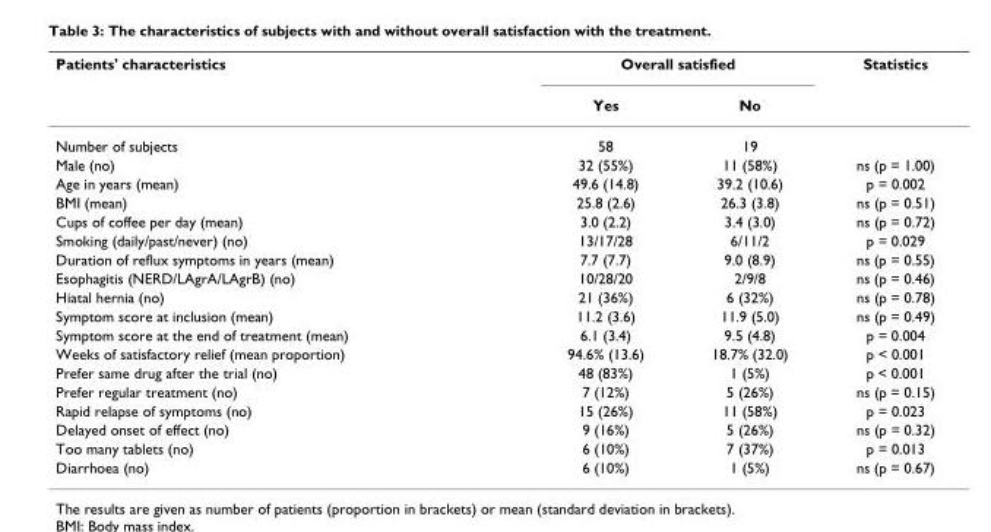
<table><thead><tr><td rowspan="2">Patients&#x27; characteristics</td><td colspan="2">Overall satisfied</td><td rowspan="2">Statistics</td></tr><tr><td>Yes</td><td>No</td></tr></thead><tbody><tr><td>Number of subjects</td><td>58</td><td>19</td><td></td></tr><tr><td>Male (no)</td><td>32 (55%)</td><td>11 (58%)</td><td>ns (p = 1.00)</td></tr><tr><td>Age in years (mean)</td><td>49.6 (14.8)</td><td>39.2 (10.6)</td><td>p = 0.002</td></tr><tr><td>BMI (mean)</td><td>25.8 (2.6)</td><td>26.3 (3.8)</td><td>ns (p = 0.51)</td></tr><tr><td>Cups of coffee per day (mean)</td><td>3.0 (2.2)</td><td>3.4 (3.0)</td><td>ns (p = 0.72)</td></tr><tr><td>Smoking (daily/past/never) (no)</td><td>13/17/28</td><td>6/11/2</td><td>p = 0.029</td></tr><tr><td>Duration of reflux symptoms in years (mean)</td><td>7.7 (7.7)</td><td>9.0 (8.9)</td><td>ns (p = 0.55)</td></tr><tr><td>Esophagitis (NERD/LAgrA/LAgrB) (no)</td><td>10/28/20</td><td>2/9/8</td><td>ns (p = 0.46)</td></tr><tr><td>Hiatal hernia (no)</td><td>21 (36%)</td><td>6 (32%)</td><td>ns (p = 0.78)</td></tr><tr><td>Symptom score at inclusion (mean)</td><td>11.2 (3.6)</td><td>11.9 (5.0)</td><td>ns (p = 0.49)</td></tr><tr><td>Symptom score at the end of treatment (mean)</td><td>6.1 (3.4)</td><td>9.5 (4.8)</td><td>p = 0.004</td></tr><tr><td>Weeks of satisfactory relief (mean proportion)</td><td>94.6% (13.6)</td><td>18.7% (32.0)</td><td>p &lt; 0.001</td></tr><tr><td>Prefer same drug after the trial (no)</td><td>48 (83%)</td><td>1 (5%)</td><td>p &lt; 0.001</td></tr><tr><td>Prefer regular treatment (no)</td><td>7 (12%)</td><td>5 (26%)</td><td>ns (p = 0.15)</td></tr><tr><td>Rapid relapse of symptoms (no)</td><td>15 (26%)</td><td>11 (58%)</td><td>p = 0.023</td></tr><tr><td>Delayed onset of effect (no)</td><td>9 (16%)</td><td>5 (26%)</td><td>ns (p = 0.32)</td></tr><tr><td>Too many tablets (no)</td><td>6 (10%)</td><td>7 (37%)</td><td>p = 0.013</td></tr><tr><td>Diarrhoea (no)</td><td>6 (10%)</td><td>1 (5%)</td><td>ns (p = 0.67)</td></tr></tbody></table>